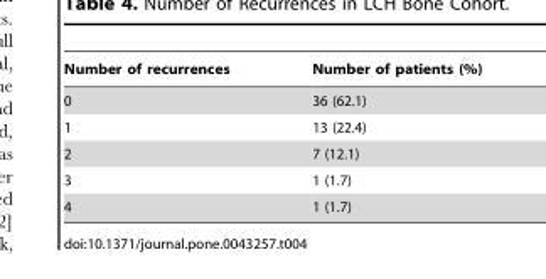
<table><thead><tr><td>Number of recurrences</td><td>Number of patients (%)</td></tr></thead><tbody><tr><td>0</td><td>36 (62.1)</td></tr><tr><td>1</td><td>13 (22.4)</td></tr><tr><td>2</td><td>7 (12.1)</td></tr><tr><td>3</td><td>1 (1.7)</td></tr><tr><td>4</td><td>1 (1.7)</td></tr></tbody></table>